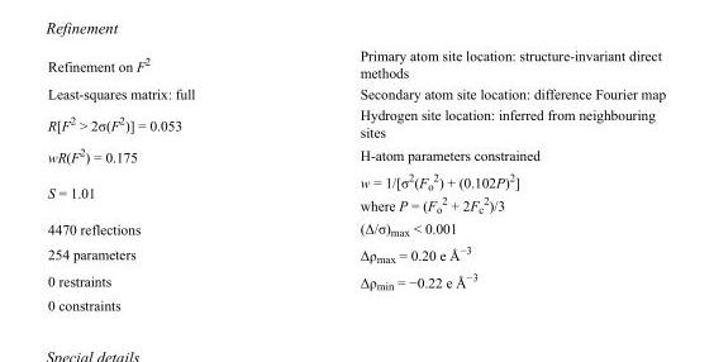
<table><tbody><tr><td>Refinement on F<sup>2</sup></td><td>Primary atom site location: structure-invariant direct methods</td></tr><tr><td>Least-squares matrix: full</td><td>Secondary atom site location: difference Fourier map</td></tr><tr><td>R[F<sup>2</sup> &gt; 2σ(F<sup>2</sup>)] = 0.053</td><td>Hydrogen site location: inferred from neighbouring sites</td></tr><tr><td>wR(F<sup>2</sup>) = 0.175</td><td>H-atom parameters constrained</td></tr><tr><td>S = 1.01</td><td>w = 1/[σ<sup>2</sup>(F<sub>o</sub> <sup>2</sup>) + (0.102P)<sup>2</sup>] where P = (F<sub>o</sub> <sup>2</sup> + 2F<sub>c</sub> <sup>2</sup>)/3</td></tr><tr><td>4470 reflections</td><td>(Δ/σ)<sub>max</sub> &lt; 0.001</td></tr><tr><td>254 parameters</td><td>Δρ<sub>max</sub> = 0.20 e Å<sup>−3</sup></td></tr><tr><td>0 restraints</td><td>Δρ<sub>min</sub> = −0.22 e Å<sup>−3</sup></td></tr><tr><td>0 constraints</td><td></td></tr></tbody></table>